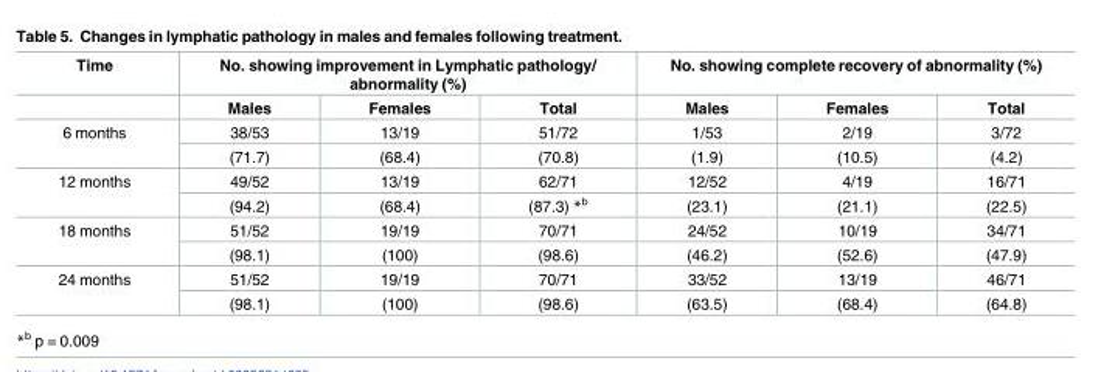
<table><thead><tr><td rowspan="2">Time</td><td colspan="3">No. showing improvement in Lymphatic pathology/ abnormality (%)</td><td colspan="3">No. showing complete recovery of abnormality (%)</td></tr><tr><td>Males</td><td>Females</td><td>Total</td><td>Males</td><td>Females</td><td>Total</td></tr></thead><tbody><tr><td rowspan="2">6 months</td><td>38/53</td><td>13/19</td><td>51/72</td><td>1/53</td><td>2/19</td><td>3/72</td></tr><tr><td>(71.7)</td><td>(68.4)</td><td>(70.8)</td><td>(1.9)</td><td>(10.5)</td><td>(4.2)</td></tr><tr><td rowspan="2">12 months</td><td>49/52</td><td>13/19</td><td>62/71</td><td>12/52</td><td>4/19</td><td>16/71</td></tr><tr><td>(94.2)</td><td>(68.4)</td><td>(87.3) *<sup>b</sup></td><td>(23.1)</td><td>(21.1)</td><td>(22.5)</td></tr><tr><td rowspan="2">18 months</td><td>51/52</td><td>19/19</td><td>70/71</td><td>24/52</td><td>10/19</td><td>34/71</td></tr><tr><td>(98.1)</td><td>(100)</td><td>(98.6)</td><td>(46.2)</td><td>(52.6)</td><td>(47.9)</td></tr><tr><td rowspan="2">24 months</td><td>51/52</td><td>19/19</td><td>70/71</td><td>33/52</td><td>13/19</td><td>46/71</td></tr><tr><td>(98.1)</td><td>(100)</td><td>(98.6)</td><td>(63.5)</td><td>(68.4)</td><td>(64.8)</td></tr></tbody></table>